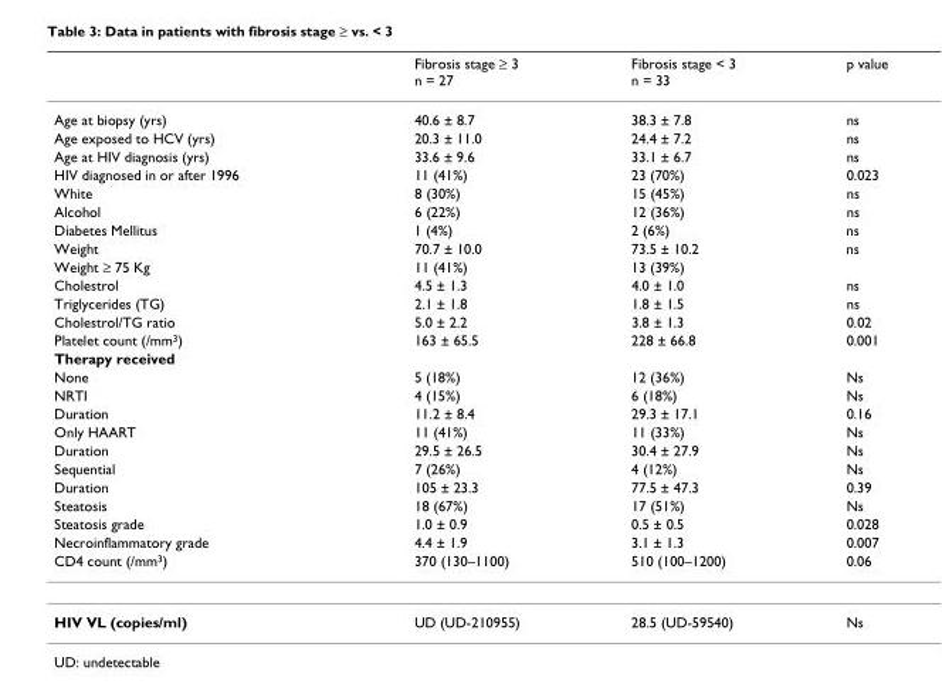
<table><thead><tr><td></td><td>Fibrosis stage ≥ 3 n = 27</td><td>Fibrosis stage &lt; 3 n = 33</td><td>p value</td></tr></thead><tbody><tr><td>Age at biopsy (yrs)</td><td>40.6 ± 8.7</td><td>38.3 ± 7.8</td><td>ns</td></tr><tr><td>Age exposed to HCV (yrs)</td><td>20.3 ± 11.0</td><td>24.4 ± 7.2</td><td>ns</td></tr><tr><td>Age at HIV diagnosis (yrs)</td><td>33.6 ± 9.6</td><td>33.1 ± 6.7</td><td>ns</td></tr><tr><td>HIV diagnosed in or after 1996</td><td>11 (41%)</td><td>23 (70%)</td><td>0.023</td></tr><tr><td>White</td><td>8 (30%)</td><td>15 (45%)</td><td>ns</td></tr><tr><td>Alcohol</td><td>6 (22%)</td><td>12 (36%)</td><td>ns</td></tr><tr><td>Diabetes Mellitus</td><td>1 (4%)</td><td>2 (6%)</td><td>ns</td></tr><tr><td>Weight</td><td>70.7 ± 10.0</td><td>73.5 ± 10.2</td><td>ns</td></tr><tr><td>Weight ≥ 75 Kg</td><td>11 (41%)</td><td>13 (39%)</td><td></td></tr><tr><td>Cholestrol</td><td>4.5 ± 1.3</td><td>4.0 ± 1.0</td><td>ns</td></tr><tr><td>Triglycerides (TG)</td><td>2.1 ± 1.8</td><td>1.8 ± 1.5</td><td>ns</td></tr><tr><td>Cholestrol/TG ratio</td><td>5.0 ± 2.2</td><td>3.8 ± 1.3</td><td>0.02</td></tr><tr><td>Platelet count (/mm<sup>3</sup>)</td><td>163 ± 65.5</td><td>228 ± 66.8</td><td>0.001</td></tr><tr><td colspan="4">Therapy received</td></tr><tr><td>None</td><td>5 (18%)</td><td>12 (36%)</td><td>Ns</td></tr><tr><td>NRTI</td><td>4 (15%)</td><td>6 (18%)</td><td>Ns</td></tr><tr><td>Duration</td><td>11.2 ± 8.4</td><td>29.3 ± 17.1</td><td>0.16</td></tr><tr><td>Only HAART</td><td>11 (41%)</td><td>11 (33%)</td><td>Ns</td></tr><tr><td>Duration</td><td>29.5 ± 26.5</td><td>30.4 ± 27.9</td><td>Ns</td></tr><tr><td>Sequential</td><td>7 (26%)</td><td>4 (12%)</td><td>Ns</td></tr><tr><td>Duration</td><td>105 ± 23.3</td><td>77.5 ± 47.3</td><td>0.39</td></tr><tr><td>Steatosis</td><td>18 (67%)</td><td>17 (51%)</td><td>Ns</td></tr><tr><td>Steatosis grade</td><td>1.0 ± 0.9</td><td>0.5 ± 0.5</td><td>0.028</td></tr><tr><td>Necroinflammatory grade</td><td>4.4 ± 1.9</td><td>3.1 ± 1.3</td><td>0.007</td></tr><tr><td>CD4 count (/mm<sup>3</sup>)</td><td>370 (130–1100)</td><td>510 (100–1200)</td><td>0.06</td></tr><tr><td>HIV VL (copies/ml)</td><td>UD (UD-210955)</td><td>28.5 (UD-59540)</td><td>Ns</td></tr></tbody></table>